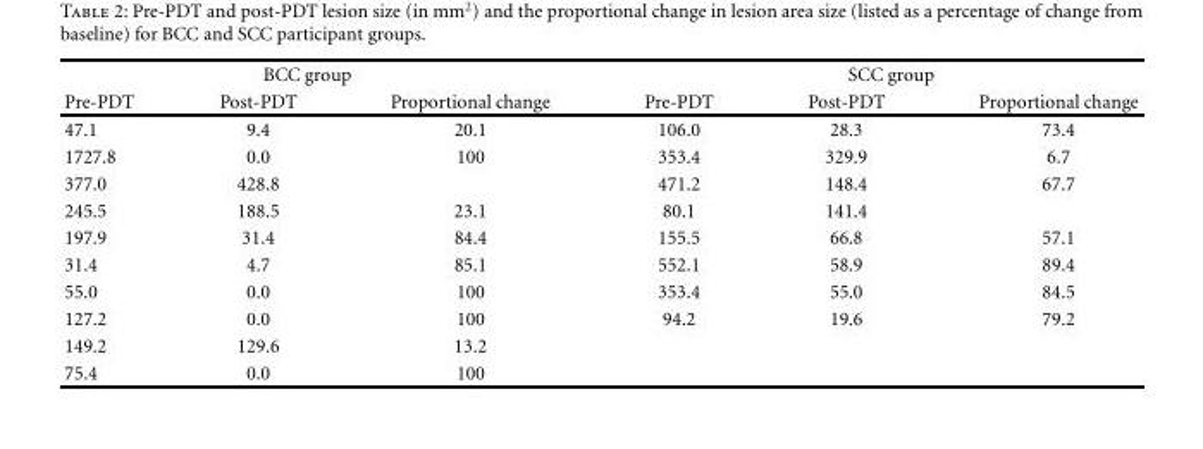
<table><thead><tr><td colspan="3">BCC group</td><td colspan="3">SCC group</td></tr><tr><td>Pre-PDT</td><td>Post-PDT</td><td>Proportional change</td><td>Pre-PDT</td><td>Post-PDT</td><td>Proportional change</td></tr></thead><tbody><tr><td>47.1</td><td>9.4</td><td>20.1</td><td>106.0</td><td>28.3</td><td>73.4</td></tr><tr><td>1727.8</td><td>0.0</td><td>100</td><td>353.4</td><td>329.9</td><td>6.7</td></tr><tr><td>377.0</td><td>428.8</td><td></td><td>471.2</td><td>148.4</td><td>67.7</td></tr><tr><td>245.5</td><td>188.5</td><td>23.1</td><td>80.1</td><td>141.4</td><td></td></tr><tr><td>197.9</td><td>31.4</td><td>84.4</td><td>155.5</td><td>66.8</td><td>57.1</td></tr><tr><td>31.4</td><td>4.7</td><td>85.1</td><td>552.1</td><td>58.9</td><td>89.4</td></tr><tr><td>55.0</td><td>0.0</td><td>100</td><td>353.4</td><td>55.0</td><td>84.5</td></tr><tr><td>127.2</td><td>0.0</td><td>100</td><td>94.2</td><td>19.6</td><td>79.2</td></tr><tr><td>149.2</td><td>129.6</td><td>13.2</td><td></td><td></td><td></td></tr><tr><td>75.4</td><td>0.0</td><td>100</td><td></td><td></td><td></td></tr></tbody></table>